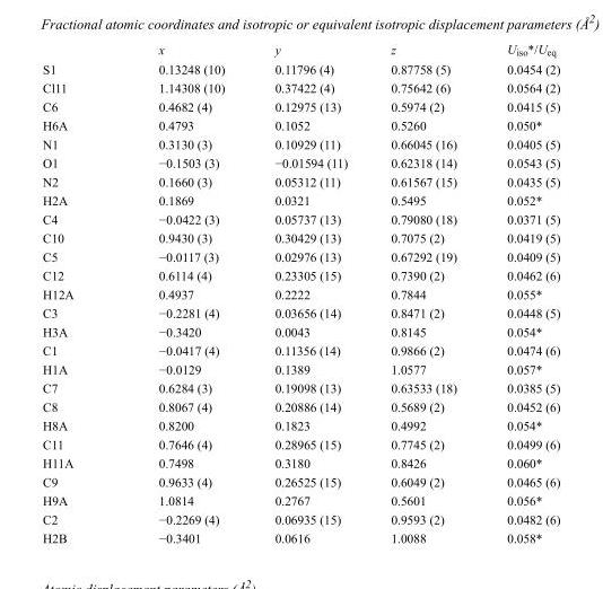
<table><thead><tr><td></td><td>x</td><td>y</td><td>z</td><td>U<sub>iso</sub>*/U<sub>eq</sub></td></tr></thead><tbody><tr><td>S1</td><td>0.13248 (10)</td><td>0.11796 (4)</td><td>0.87758 (5)</td><td>0.0454 (2)</td></tr><tr><td>Cl11</td><td>1.14308 (10)</td><td>0.37422 (4)</td><td>0.75642 (6)</td><td>0.0564 (2)</td></tr><tr><td>C6</td><td>0.4682 (4)</td><td>0.12975 (13)</td><td>0.5974 (2)</td><td>0.0415 (5)</td></tr><tr><td>H6A</td><td>0.4793</td><td>0.1052</td><td>0.5260</td><td>0.050*</td></tr><tr><td>N1</td><td>0.3130 (3)</td><td>0.10929 (11)</td><td>0.66045 (16)</td><td>0.0405 (5)</td></tr><tr><td>O1</td><td>−0.1503 (3)</td><td>−0.01594 (11)</td><td>0.62318 (14)</td><td>0.0543 (5)</td></tr><tr><td>N2</td><td>0.1660 (3)</td><td>0.05312 (11)</td><td>0.61567 (15)</td><td>0.0435 (5)</td></tr><tr><td>H2A</td><td>0.1869</td><td>0.0321</td><td>0.5495</td><td>0.052*</td></tr><tr><td>C4</td><td>−0.0422 (3)</td><td>0.05737 (13)</td><td>0.79080 (18)</td><td>0.0371 (5)</td></tr><tr><td>C10</td><td>0.9430 (3)</td><td>0.30429 (13)</td><td>0.7075 (2)</td><td>0.0419 (5)</td></tr><tr><td>C5</td><td>−0.0117 (3)</td><td>0.02976 (13)</td><td>0.67292 (19)</td><td>0.0409 (5)</td></tr><tr><td>C12</td><td>0.6114 (4)</td><td>0.23305 (15)</td><td>0.7390 (2)</td><td>0.0462 (6)</td></tr><tr><td>H12A</td><td>0.4937</td><td>0.2222</td><td>0.7844</td><td>0.055*</td></tr><tr><td>C3</td><td>−0.2281 (4)</td><td>0.03656 (14)</td><td>0.8471 (2)</td><td>0.0448 (5)</td></tr><tr><td>H3A</td><td>−0.3420</td><td>0.0043</td><td>0.8145</td><td>0.054*</td></tr><tr><td>C1</td><td>−0.0417 (4)</td><td>0.11356 (14)</td><td>0.9866 (2)</td><td>0.0474 (6)</td></tr><tr><td>H1A</td><td>−0.0129</td><td>0.1389</td><td>1.0577</td><td>0.057*</td></tr><tr><td>C7</td><td>0.6284 (3)</td><td>0.19098 (13)</td><td>0.63533 (18)</td><td>0.0385 (5)</td></tr><tr><td>C8</td><td>0.8067 (4)</td><td>0.20886 (14)</td><td>0.5689 (2)</td><td>0.0452 (6)</td></tr><tr><td>H8A</td><td>0.8200</td><td>0.1823</td><td>0.4992</td><td>0.054*</td></tr><tr><td>C11</td><td>0.7646 (4)</td><td>0.28965 (15)</td><td>0.7745 (2)</td><td>0.0499 (6)</td></tr><tr><td>H11A</td><td>0.7498</td><td>0.3180</td><td>0.8426</td><td>0.060*</td></tr><tr><td>C9</td><td>0.9633 (4)</td><td>0.26525 (15)</td><td>0.6049 (2)</td><td>0.0465 (6)</td></tr><tr><td>H9A</td><td>1.0814</td><td>0.2767</td><td>0.5601</td><td>0.056*</td></tr><tr><td>C2</td><td>−0.2269 (4)</td><td>0.06935 (15)</td><td>0.9593 (2)</td><td>0.0482 (6)</td></tr><tr><td>H2B</td><td>−0.3401</td><td>0.0616</td><td>1.0088</td><td>0.058*</td></tr></tbody></table>